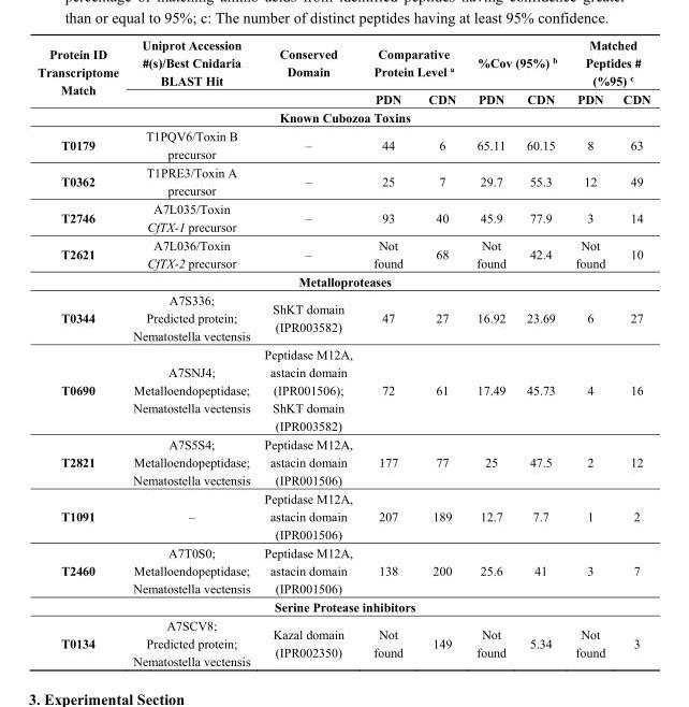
<table><thead><tr><td rowspan="2">Protein ID Transcriptome Match</td><td rowspan="2">Uniprot Accession #(s)/Best Cnidaria BLAST Hit</td><td rowspan="2">Conserved Domain</td><td colspan="2">Comparative Protein Level <sup>a</sup></td><td colspan="2">%Cov (95%) <sup>b</sup></td><td colspan="2">Matched Peptides # (%95) <sup>c</sup></td></tr><tr><td>PDN</td><td>CDN</td><td>PDN</td><td>CDN</td><td>PDN</td><td>CDN</td></tr></thead><tbody><tr><td colspan="9">Known Cubozoa Toxins</td></tr><tr><td>T0179</td><td>T1PQV6/Toxin B precursor</td><td>–</td><td>44</td><td>6</td><td>65.11</td><td>60.15</td><td>8</td><td>63</td></tr><tr><td>T0362</td><td>T1PRE3/Toxin A precursor</td><td>–</td><td>25</td><td>7</td><td>29.7</td><td>55.3</td><td>12</td><td>49</td></tr><tr><td>T2746</td><td>A7L035/Toxin CfTX-1 precursor</td><td>–</td><td>93</td><td>40</td><td>45.9</td><td>77.9</td><td>3</td><td>14</td></tr><tr><td>T2621</td><td>A7L036/Toxin CfTX-2 precursor</td><td>–</td><td>Not found</td><td>68</td><td>Not found</td><td>42.4</td><td>Not found</td><td>10</td></tr><tr><td colspan="9">Metalloproteases</td></tr><tr><td>T0344</td><td>A7S336; Predicted protein; Nematostella vectensis</td><td>ShKT domain (IPR003582)</td><td>47</td><td>27</td><td>16.92</td><td>23.69</td><td>6</td><td>27</td></tr><tr><td>T0690</td><td>A7SNJ4; Metalloendopeptidase; Nematostella vectensis</td><td>Peptidase M12A, astacin domain (IPR001506); ShKT domain (IPR003582)</td><td>72</td><td>61</td><td>17.49</td><td>45.73</td><td>4</td><td>16</td></tr><tr><td>T2821</td><td>A7S5S4; Metalloendopeptidase; Nematostella vectensis</td><td>Peptidase M12A, astacin domain (IPR001506)</td><td>177</td><td>77</td><td>25</td><td>47.5</td><td>2</td><td>12</td></tr><tr><td>T1091</td><td>–</td><td>Peptidase M12A, astacin domain (IPR001506)</td><td>207</td><td>189</td><td>12.7</td><td>7.7</td><td>1</td><td>2</td></tr><tr><td>T2460</td><td>A7T0S0; Metalloendopeptidase; Nematostella vectensis</td><td>Peptidase M12A, astacin domain (IPR001506)</td><td>138</td><td>200</td><td>25.6</td><td>41</td><td>3</td><td>7</td></tr><tr><td colspan="9">Serine Protease inhibitors</td></tr><tr><td>T0134</td><td>A7SCV8; Predicted protein; Nematostella vectensis</td><td>Kazal domain (IPR002350)</td><td>Not found</td><td>149</td><td>Not found</td><td>5.34</td><td>Not found</td><td>3</td></tr></tbody></table>